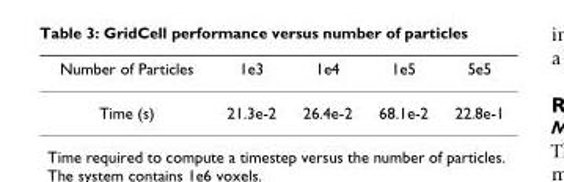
<table><thead><tr><td>Number of Particles</td><td>1e3</td><td>1e4</td><td>1e5</td><td>5e5</td></tr></thead><tbody><tr><td>Time (s)</td><td>21.3e-2</td><td>26.4e-2</td><td>68.1e-2</td><td>22.8e-1</td></tr></tbody></table>